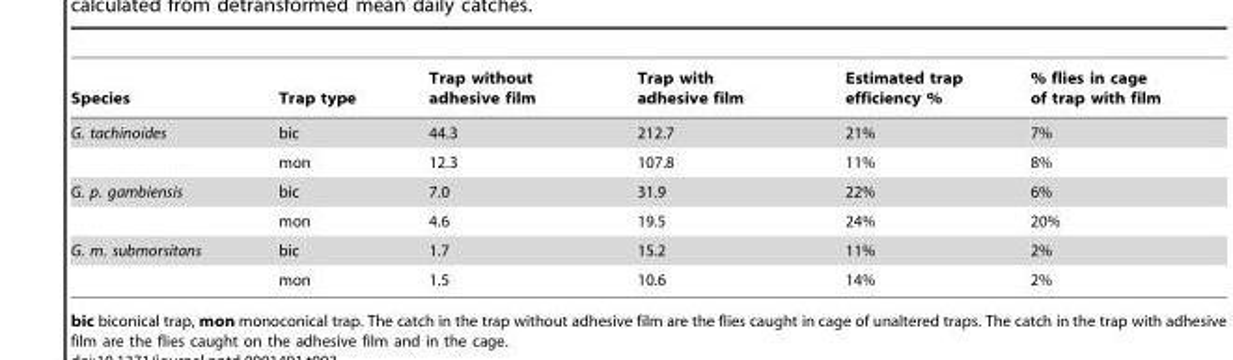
<table><thead><tr><td>Species</td><td>Trap type</td><td>Trap without adhesive film</td><td>Trap with adhesive film</td><td>Estimated trap efficiency %</td><td>% flies in cage of trap with film</td></tr></thead><tbody><tr><td rowspan="2">G. tachinoides</td><td>bic</td><td>44.3</td><td>212.7</td><td>21%</td><td>7%</td></tr><tr><td>mon</td><td>12.3</td><td>107.8</td><td>11%</td><td>8%</td></tr><tr><td rowspan="2">G. p. gambiensis</td><td>bic</td><td>7.0</td><td>31.9</td><td>22%</td><td>6%</td></tr><tr><td>mon</td><td>4.6</td><td>19.5</td><td>24%</td><td>20%</td></tr><tr><td rowspan="2">G. m. submorsitans</td><td>bic</td><td>1.7</td><td>15.2</td><td>11%</td><td>2%</td></tr><tr><td>mon</td><td>1.5</td><td>10.6</td><td>14%</td><td>2%</td></tr></tbody></table>